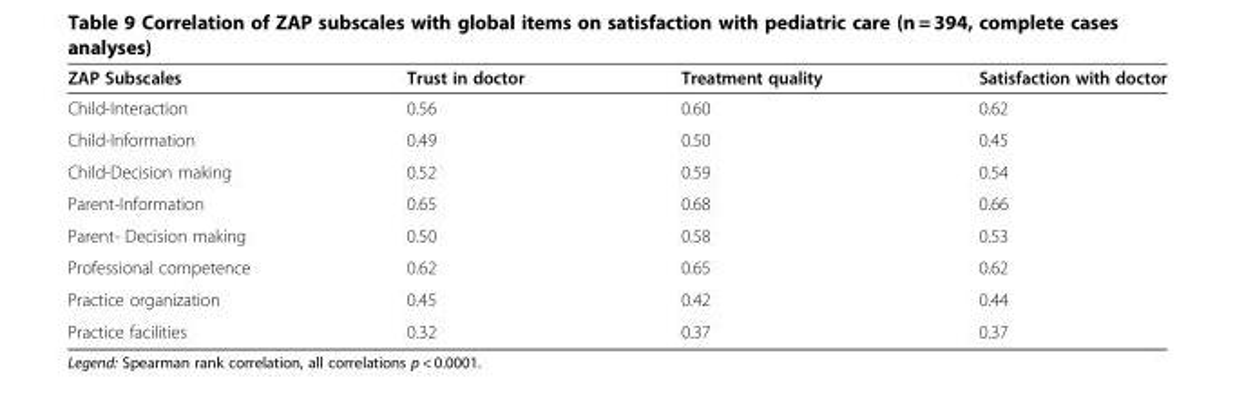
<table><thead><tr><td>ZAP Subscales</td><td>Trust in doctor</td><td>Treatment quality</td><td>Satisfaction with doctor</td></tr></thead><tbody><tr><td>Child-Interaction</td><td>0.56</td><td>0.60</td><td>0.62</td></tr><tr><td>Child-Information</td><td>0.49</td><td>0.50</td><td>0.45</td></tr><tr><td>Child-Decision making</td><td>0.52</td><td>0.59</td><td>0.54</td></tr><tr><td>Parent-Information</td><td>0.65</td><td>0.68</td><td>0.66</td></tr><tr><td>Parent- Decision making</td><td>0.50</td><td>0.58</td><td>0.53</td></tr><tr><td>Professional competence</td><td>0.62</td><td>0.65</td><td>0.62</td></tr><tr><td>Practice organization</td><td>0.45</td><td>0.42</td><td>0.44</td></tr><tr><td>Practice facilities</td><td>0.32</td><td>0.37</td><td>0.37</td></tr></tbody></table>